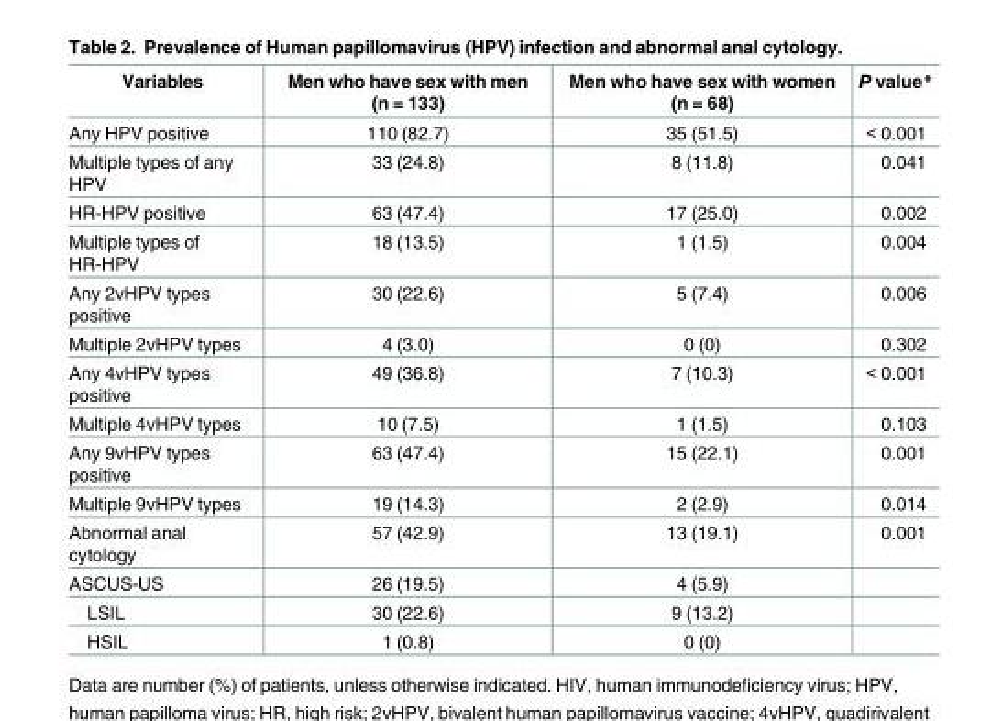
<table><thead><tr><td>Variables</td><td>Men who have sex with men (n = 133)</td><td>Men who have sex with women (n = 68)</td><td>P value*</td></tr></thead><tbody><tr><td>Any HPV positive</td><td>110 (82.7)</td><td>35 (51.5)</td><td>&lt; 0.001</td></tr><tr><td>Multiple types of any HPV</td><td>33 (24.8)</td><td>8 (11.8)</td><td>0.041</td></tr><tr><td>HR-HPV positive</td><td>63 (47.4)</td><td>17 (25.0)</td><td>0.002</td></tr><tr><td>Multiple types of HR-HPV</td><td>18 (13.5)</td><td>1 (1.5)</td><td>0.004</td></tr><tr><td>Any 2vHPV types positive</td><td>30 (22.6)</td><td>5 (7.4)</td><td>0.006</td></tr><tr><td>Multiple 2vHPV types</td><td>4 (3.0)</td><td>0 (0)</td><td>0.302</td></tr><tr><td>Any 4vHPV types positive</td><td>49 (36.8)</td><td>7 (10.3)</td><td>&lt; 0.001</td></tr><tr><td>Multiple 4vHPV types</td><td>10 (7.5)</td><td>1 (1.5)</td><td>0.103</td></tr><tr><td>Any 9vHPV types positive</td><td>63 (47.4)</td><td>15 (22.1)</td><td>0.001</td></tr><tr><td>Multiple 9vHPV types</td><td>19 (14.3)</td><td>2 (2.9)</td><td>0.014</td></tr><tr><td>Abnormal anal cytology</td><td>57 (42.9)</td><td>13 (19.1)</td><td>0.001</td></tr><tr><td>ASCUS-US</td><td>26 (19.5)</td><td>4 (5.9)</td><td></td></tr><tr><td>LSIL</td><td>30 (22.6)</td><td>9 (13.2)</td><td></td></tr><tr><td>HSIL</td><td>1 (0.8)</td><td>0 (0)</td><td></td></tr></tbody></table>